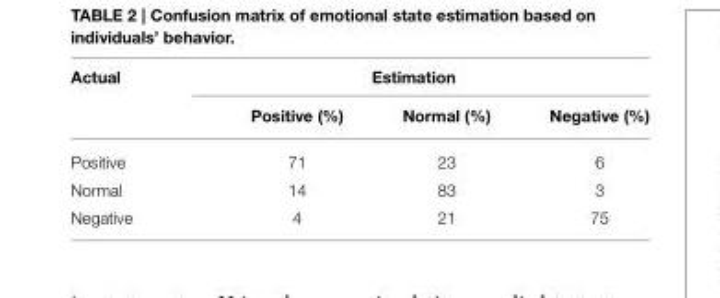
<table><thead><tr><td rowspan="2">Actual</td><td colspan="3">Estimation</td></tr><tr><td>Positive (%)</td><td>Normal (%)</td><td>Negative (%)</td></tr></thead><tbody><tr><td>Positive</td><td>71</td><td>23</td><td>6</td></tr><tr><td>Normal</td><td>14</td><td>83</td><td>3</td></tr><tr><td>Negative</td><td>4</td><td>21</td><td>75</td></tr></tbody></table>